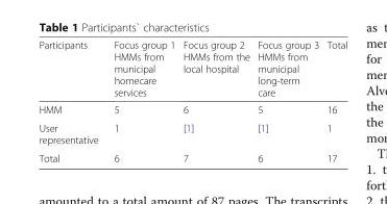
<table><thead><tr><td>Participants</td><td>Focus group 1 HMMs from municipal homecare services</td><td>Focus group 2 HMMs from the local hospital</td><td>Focus group 3 HMMs from municipal long-term care</td><td>Total</td></tr></thead><tbody><tr><td>HMM</td><td>5</td><td>6</td><td>5</td><td>16</td></tr><tr><td>User representative</td><td>1</td><td>[1]</td><td>[1]</td><td>1</td></tr><tr><td>Total</td><td>6</td><td>7</td><td>6</td><td>17</td></tr></tbody></table>